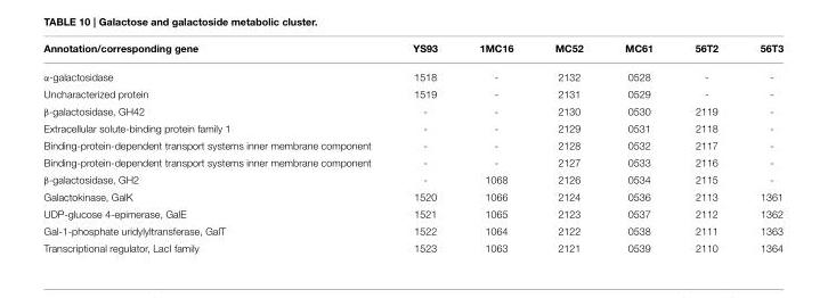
<table><thead><tr><td>Annotation/corresponding gene</td><td>YS93</td><td>1MC16</td><td>MC52</td><td>MC61</td><td>56T2</td><td>56T3</td></tr></thead><tbody><tr><td>α-galactosidase</td><td>1518</td><td>-</td><td>2132</td><td>0528</td><td>-</td><td>-</td></tr><tr><td>Uncharacterized protein</td><td>1519</td><td>-</td><td>2131</td><td>0529</td><td>-</td><td>-</td></tr><tr><td>β-galactosidase, GH42</td><td>-</td><td>-</td><td>2130</td><td>0530</td><td>2119</td><td>-</td></tr><tr><td>Extracellular solute-binding protein family 1</td><td>-</td><td>-</td><td>2129</td><td>0531</td><td>2118</td><td>-</td></tr><tr><td>Binding-protein-dependent transport systems inner membrane component</td><td>-</td><td>-</td><td>2128</td><td>0532</td><td>2117</td><td>-</td></tr><tr><td>Binding-protein-dependent transport systems inner membrane component</td><td>-</td><td>-</td><td>2127</td><td>0533</td><td>2116</td><td>-</td></tr><tr><td>β-galactosidase, GH2</td><td>-</td><td>1068</td><td>2126</td><td>0534</td><td>2115</td><td>-</td></tr><tr><td>Galactokinase, GalK</td><td>1520</td><td>1066</td><td>2124</td><td>0536</td><td>2113</td><td>1361</td></tr><tr><td>UDP-glucose 4-epimerase, GalE</td><td>1521</td><td>1065</td><td>2123</td><td>0537</td><td>2112</td><td>1362</td></tr><tr><td>Gal-1-phosphate uridylyltransferase, GalT</td><td>1522</td><td>1064</td><td>2122</td><td>0538</td><td>2111</td><td>1363</td></tr><tr><td>Transcriptional regulator, LacI family</td><td>1523</td><td>1063</td><td>2121</td><td>0539</td><td>2110</td><td>1364</td></tr></tbody></table>